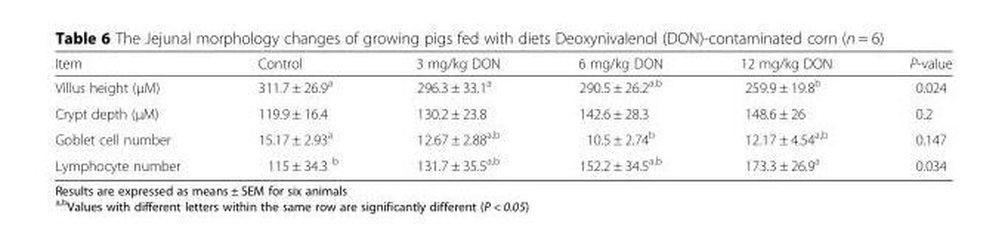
<table><thead><tr><td>Item</td><td>Control</td><td>3 mg/kg DON</td><td>6 mg/kg DON</td><td>12 mg/kg DON</td><td>P-value</td></tr></thead><tbody><tr><td>Villus height (μM)</td><td>311.7 ± 26.9<sup>a</sup></td><td>296.3 ± 33.1<sup>a</sup></td><td>290.5 ± 26.2<sup>a,b</sup></td><td>259.9 ± 19.8<sup>b</sup></td><td>0.024</td></tr><tr><td>Crypt depth (μM)</td><td>119.9 ± 16.4</td><td>130.2 ± 23.8</td><td>142.6 ± 28.3</td><td>148.6 ± 26</td><td>0.2</td></tr><tr><td>Goblet cell number</td><td>15.17 ± 2.93<sup>a</sup></td><td>12.67 ± 2.88<sup>a,b</sup></td><td>10.5 ± 2.74<sup>b</sup></td><td>12.17 ± 4.54<sup>a,b</sup></td><td>0.147</td></tr><tr><td>Lymphocyte number</td><td>115 ± 34.3 <sup>b</sup></td><td>131.7 ± 35.5<sup>a,b</sup></td><td>152.2 ± 34.5<sup>a,b</sup></td><td>173.3 ± 26.9<sup>a</sup></td><td>0.034</td></tr></tbody></table>